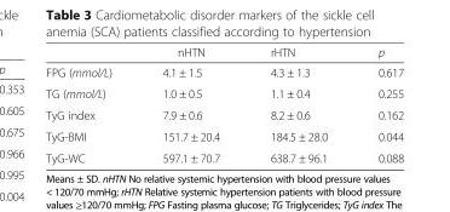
<table><thead><tr><td></td><td>nHTN</td><td>rHTN</td><td>p</td></tr></thead><tbody><tr><td>FPG (mmol/L)</td><td>4.1 ± 1.5</td><td>4.3 ± 1.3</td><td>0.617</td></tr><tr><td>TG (mmol/L)</td><td>1.0 ± 0.5</td><td>1.1 ± 0.4</td><td>0.255</td></tr><tr><td>TyG index</td><td>7.9 ± 0.6</td><td>8.2 ± 0.6</td><td>0.162</td></tr><tr><td>TyG-BMI</td><td>151.7 ± 20.4</td><td>184.5 ± 28.0</td><td>0.044</td></tr><tr><td>TyG-WC</td><td>597.1 ± 70.7</td><td>638.7 ± 96.1</td><td>0.088</td></tr></tbody></table>